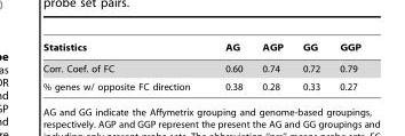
<table><thead><tr><td>Statistics</td><td>AG</td><td>AGP</td><td>GG</td><td>GGP</td></tr></thead><tbody><tr><td>Corr. Coef. of FC</td><td>0.60</td><td>0.74</td><td>0.72</td><td>0.79</td></tr><tr><td>% genes w/ opposite FC direction</td><td>0.38</td><td>0.28</td><td>0.33</td><td>0.27</td></tr></tbody></table>